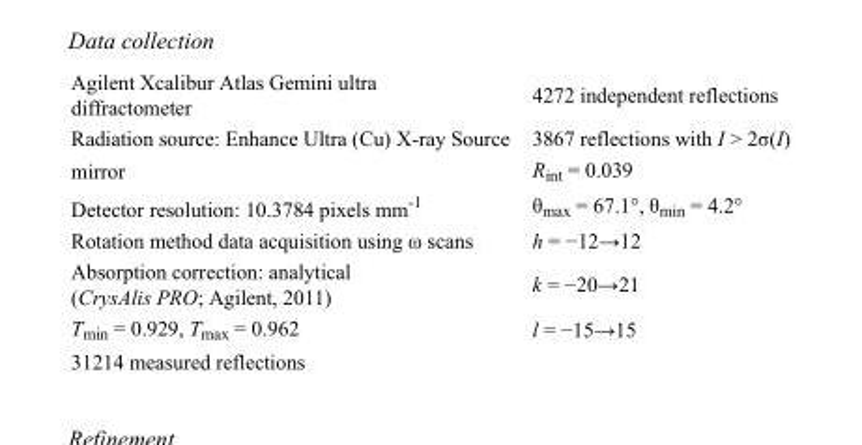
<table><tbody><tr><td>Agilent Xcalibur Atlas Gemini ultra diffractometer</td><td>4272 independent reflections</td></tr><tr><td>Radiation source: Enhance Ultra (Cu) X-ray Source</td><td>3867 reflections with I &gt; 2σ(I)</td></tr><tr><td>mirror</td><td>R<sub>int</sub> = 0.039</td></tr><tr><td>Detector resolution: 10.3784 pixels mm<sup>-1</sup></td><td>θ<sub>max</sub> = 67.1°, θ<sub>min</sub> = 4.2°</td></tr><tr><td>Rotation method data acquisition using ω scans</td><td>h = −12→12</td></tr><tr><td>Absorption correction: analytical (CrysAlis PRO; Agilent, 2011)</td><td>k = −20→21</td></tr><tr><td>T<sub>min</sub> = 0.929, T<sub>max</sub> = 0.962</td><td>l = −15→15</td></tr><tr><td>31214 measured reflections</td><td></td></tr></tbody></table>